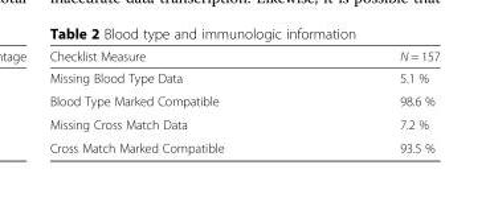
<table><thead><tr><td>Checklist Measure</td><td>N = 157</td></tr></thead><tbody><tr><td>Missing Blood Type Data</td><td>5.1 %</td></tr><tr><td>Blood Type Marked Compatible</td><td>98.6 %</td></tr><tr><td>Missing Cross Match Data</td><td>7.2 %</td></tr><tr><td>Cross Match Marked Compatible</td><td>93.5 %</td></tr></tbody></table>